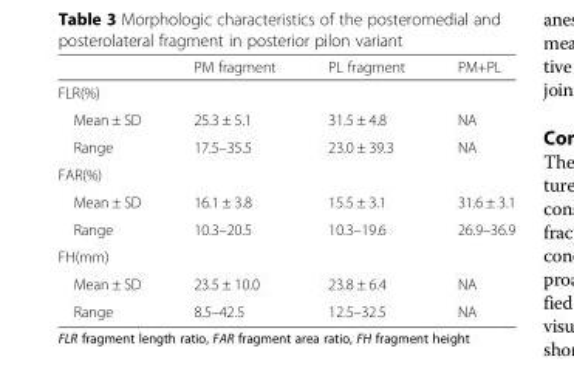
<table><thead><tr><td></td><td>PM fragment</td><td>PL fragment</td><td>PM+PL</td></tr></thead><tbody><tr><td colspan="4">FLR(%)</td></tr><tr><td>Mean ± SD</td><td>25.3 ± 5.1</td><td>31.5 ± 4.8</td><td>NA</td></tr><tr><td>Range</td><td>17.5–35.5</td><td>23.0 ± 39.3</td><td>NA</td></tr><tr><td colspan="4">FAR(%)</td></tr><tr><td>Mean ± SD</td><td>16.1 ± 3.8</td><td>15.5 ± 3.1</td><td>31.6 ± 3.1</td></tr><tr><td>Range</td><td>10.3–20.5</td><td>10.3–19.6</td><td>26.9–36.9</td></tr><tr><td colspan="4">FH(mm)</td></tr><tr><td>Mean ± SD</td><td>23.5 ± 10.0</td><td>23.8 ± 6.4</td><td>NA</td></tr><tr><td>Range</td><td>8.5–42.5</td><td>12.5–32.5</td><td>NA</td></tr></tbody></table>